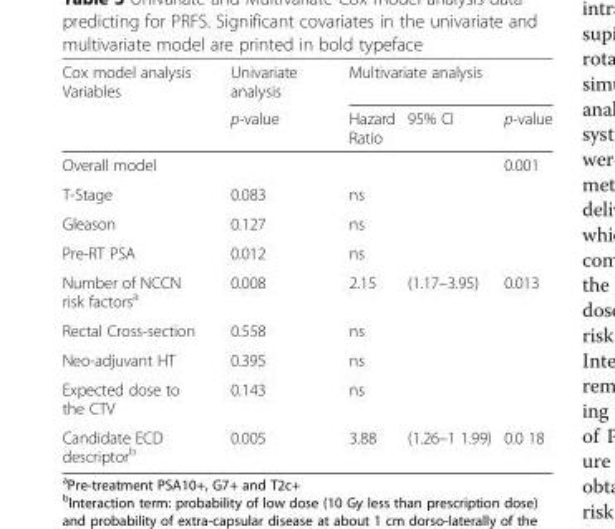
<table><thead><tr><td rowspan="2">Cox model analysis Variables</td><td rowspan="2">Univariate analysis p-value</td><td colspan="3">Multivariate analysis</td></tr><tr><td>Hazard Ratio</td><td>95% CI</td><td>p-value</td></tr></thead><tbody><tr><td>Overall model</td><td></td><td></td><td></td><td>0.001</td></tr><tr><td>T-Stage</td><td>0.083</td><td>ns</td><td></td><td></td></tr><tr><td>Gleason</td><td>0.127</td><td>ns</td><td></td><td></td></tr><tr><td>Pre-RT PSA</td><td>0.012</td><td>ns</td><td></td><td></td></tr><tr><td>Number of NCCN risk factors<sup>a</sup></td><td>0.008</td><td>2.15</td><td>(1.17–3.95)</td><td>0.013</td></tr><tr><td>Rectal Cross-section</td><td>0.558</td><td>ns</td><td></td><td></td></tr><tr><td>Neo-adjuvant HT</td><td>0.395</td><td>ns</td><td></td><td></td></tr><tr><td>Expected dose to the CTV</td><td>0.143</td><td>ns</td><td></td><td></td></tr><tr><td>Candidate ECD descriptor<sup>b</sup></td><td>0.005</td><td>3.88</td><td>(1.26–1 1.99)</td><td>0.0 18</td></tr></tbody></table>